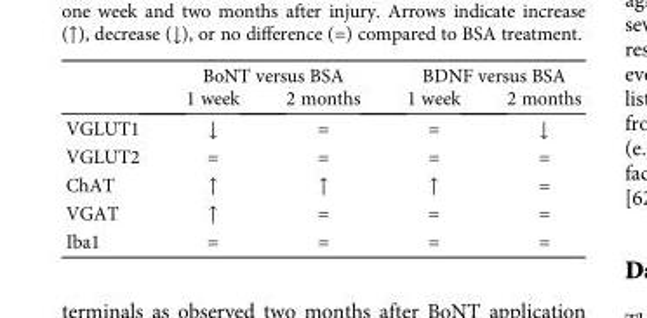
<table><thead><tr><td rowspan="2"></td><td colspan="2">BoNT versus BSA</td><td colspan="2">BDNF versus BSA</td></tr><tr><td>1 week</td><td>2 months</td><td>1 week</td><td>2 months</td></tr></thead><tbody><tr><td>VGLUT1</td><td>↓</td><td>=</td><td>=</td><td>↓</td></tr><tr><td>VGLUT2</td><td>=</td><td>=</td><td>=</td><td>=</td></tr><tr><td>ChAT</td><td>↑</td><td>↑</td><td>↑</td><td>=</td></tr><tr><td>VGAT</td><td>↑</td><td>=</td><td>=</td><td>=</td></tr><tr><td>Iba1</td><td>=</td><td>=</td><td>=</td><td>=</td></tr></tbody></table>